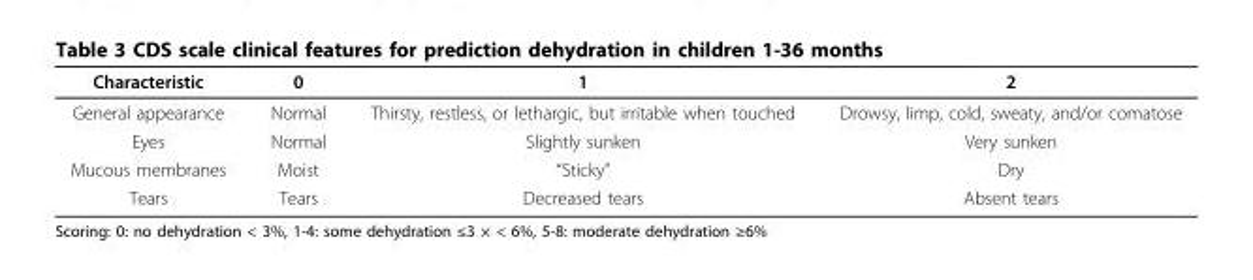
<table><thead><tr><td>Characteristic</td><td>0</td><td>1</td><td>2</td></tr></thead><tbody><tr><td>General appearance</td><td>Normal</td><td>Thirsty, restless, or lethargic, but irritable when touched</td><td>Drowsy, limp, cold, sweaty, and/or comatose</td></tr><tr><td>Eyes</td><td>Normal</td><td>Slightly sunken</td><td>Very sunken</td></tr><tr><td>Mucous membranes</td><td>Moist</td><td>“Sticky”</td><td>Dry</td></tr><tr><td>Tears</td><td>Tears</td><td>Decreased tears</td><td>Absent tears</td></tr></tbody></table>